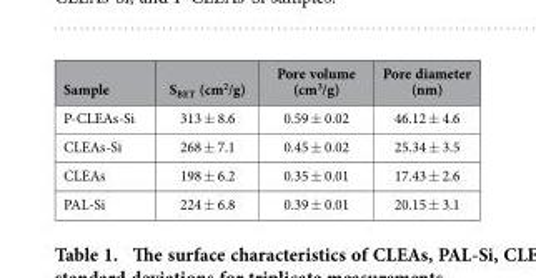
<table><thead><tr><td>Sample</td><td>S<sub>BET</sub> (cm<sup>2</sup>/g)</td><td>Pore volume (cm<sup>3</sup>/g)</td><td>Pore diameter (nm)</td></tr></thead><tbody><tr><td>P-CLEAs-Si</td><td>313 ± 8.6</td><td>0.59 ± 0.02</td><td>46.12 ± 4.6</td></tr><tr><td>CLEAs-Si</td><td>268 ± 7.1</td><td>0.45 ± 0.02</td><td>25.34 ± 3.5</td></tr><tr><td>CLEAs</td><td>198 ± 6.2</td><td>0.35 ± 0.01</td><td>17.43 ± 2.6</td></tr><tr><td>PAL-Si</td><td>224 ± 6.8</td><td>0.39 ± 0.01</td><td>20.15 ± 3.1</td></tr></tbody></table>